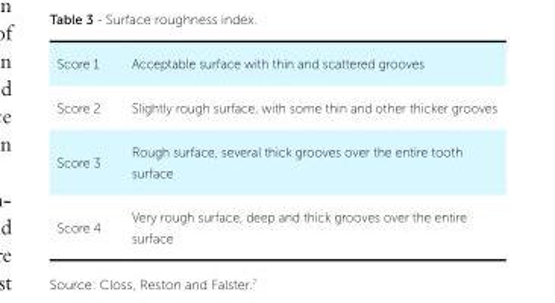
<table><tbody><tr><td>Score 1</td><td>Acceptable surface with thin and scattered grooves</td></tr><tr><td>Score 2</td><td>Slightly rough surface, with some thin and other thicker grooves</td></tr><tr><td>Score 3</td><td>Rough surface, several thick grooves over the entire tooth surface</td></tr><tr><td>Score 4</td><td>Very rough surface, deep and thick grooves over the entire surface</td></tr></tbody></table>